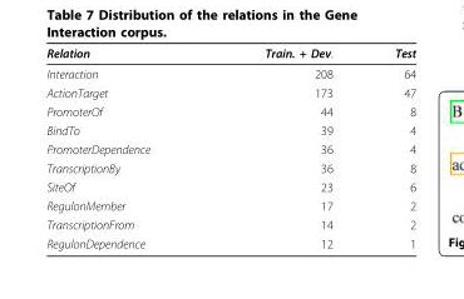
<table><thead><tr><td>Relation</td><td>Train. + Dev.</td><td>Test</td></tr></thead><tbody><tr><td>Interaction</td><td>208</td><td>64</td></tr><tr><td>ActionTarget</td><td>173</td><td>47</td></tr><tr><td>PromoterOf</td><td>44</td><td>8</td></tr><tr><td>BindTo</td><td>39</td><td>4</td></tr><tr><td>PromoterDependence</td><td>36</td><td>4</td></tr><tr><td>TranscriptionBy</td><td>36</td><td>8</td></tr><tr><td>SiteOf</td><td>23</td><td>6</td></tr><tr><td>RegulonMember</td><td>17</td><td>2</td></tr><tr><td>TranscriptionFrom</td><td>14</td><td>2</td></tr><tr><td>RegulonDependence</td><td>12</td><td>1</td></tr></tbody></table>